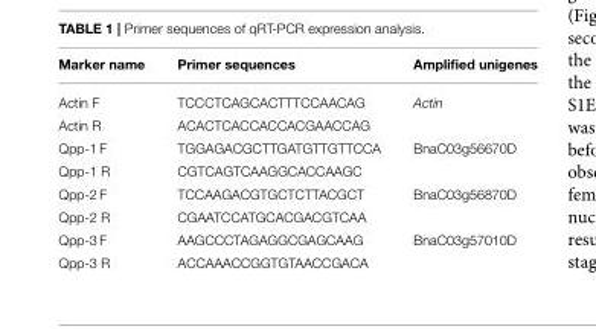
<table><thead><tr><td>Marker name</td><td>Primer sequences</td><td>Amplified unigenes</td></tr></thead><tbody><tr><td>Actin F</td><td>TCCCTCAGCACTTTCCAACAG</td><td>Actin</td></tr><tr><td>Actin R</td><td>ACACTCACCACCACGAACCAG</td><td></td></tr><tr><td>Qpp-1 F</td><td>TGGAGACGCTTGATGTTGTTCCA</td><td>BnaC03g56670D</td></tr><tr><td>Qpp-1 R</td><td>CGTCAGTCAAGGCACCAAGC</td><td></td></tr><tr><td>Qpp-2 F</td><td>TCCAAGACGTGCTCTTACGCT</td><td>BnaC03g56870D</td></tr><tr><td>Qpp-2 R</td><td>CGAATCCATGCACGACGTCAA</td><td></td></tr><tr><td>Qpp-3 F</td><td>AAGCCCTAGAGGCGAGCAAG</td><td>BnaC03g57010D</td></tr><tr><td>Qpp-3 R</td><td>ACCAAACCGGTGTAACCGACA</td><td></td></tr></tbody></table>